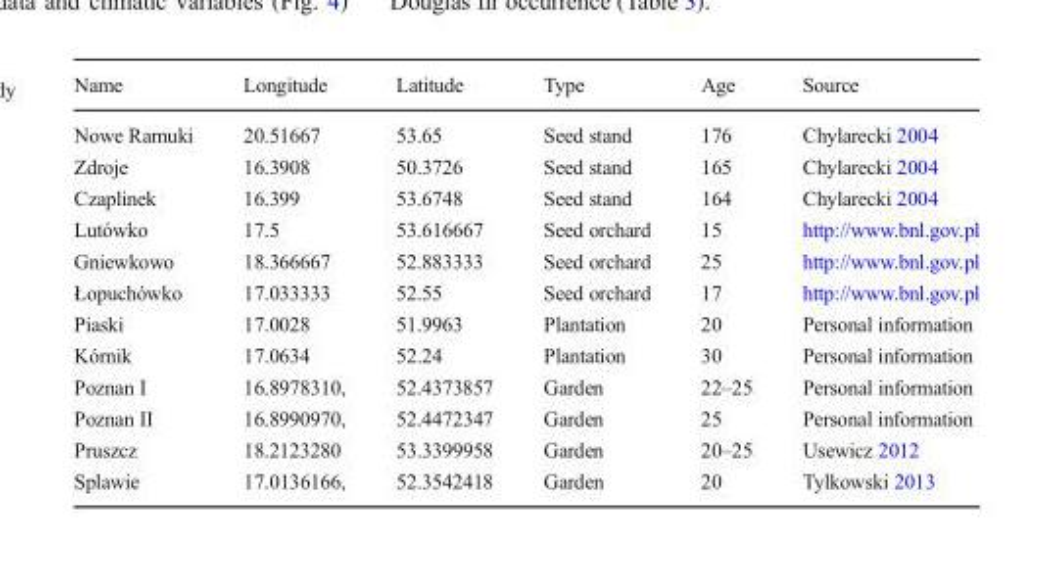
<table><thead><tr><td>Name</td><td>Longitude</td><td>Latitude</td><td>Type</td><td>Age</td><td>Source</td></tr></thead><tbody><tr><td>Nowe Ramuki</td><td>20.51667</td><td>53.65</td><td>Seed stand</td><td>176</td><td>Chylarecki 2004</td></tr><tr><td>Zdroje</td><td>16.3908</td><td>50.3726</td><td>Seed stand</td><td>165</td><td>Chylarecki 2004</td></tr><tr><td>Czaplinek</td><td>16.399</td><td>53.6748</td><td>Seed stand</td><td>164</td><td>Chylarecki 2004</td></tr><tr><td>Lutówko</td><td>17.5</td><td>53.616667</td><td>Seed orchard</td><td>15</td><td>http://www.bnl.gov.pl</td></tr><tr><td>Gniewkowo</td><td>18.366667</td><td>52.883333</td><td>Seed orchard</td><td>25</td><td>http://www.bnl.gov.pl</td></tr><tr><td>Łopuchówko</td><td>17.033333</td><td>52.55</td><td>Seed orchard</td><td>17</td><td>http://www.bnl.gov.pl</td></tr><tr><td>Piaski</td><td>17.0028</td><td>51.9963</td><td>Plantation</td><td>20</td><td>Personal information</td></tr><tr><td>Kórnik</td><td>17.0634</td><td>52.24</td><td>Plantation</td><td>30</td><td>Personal information</td></tr><tr><td>Poznan I</td><td>16.8978310,</td><td>52.4373857</td><td>Garden</td><td>22–25</td><td>Personal information</td></tr><tr><td>Poznan II</td><td>16.8990970,</td><td>52.4472347</td><td>Garden</td><td>25</td><td>Personal information</td></tr><tr><td>Pruszcz</td><td>18.2123280</td><td>53.3399958</td><td>Garden</td><td>20–25</td><td>Usewicz 2012</td></tr><tr><td>Splawie</td><td>17.0136166,</td><td>52.3542418</td><td>Garden</td><td>20</td><td>Tylkowski 2013</td></tr></tbody></table>